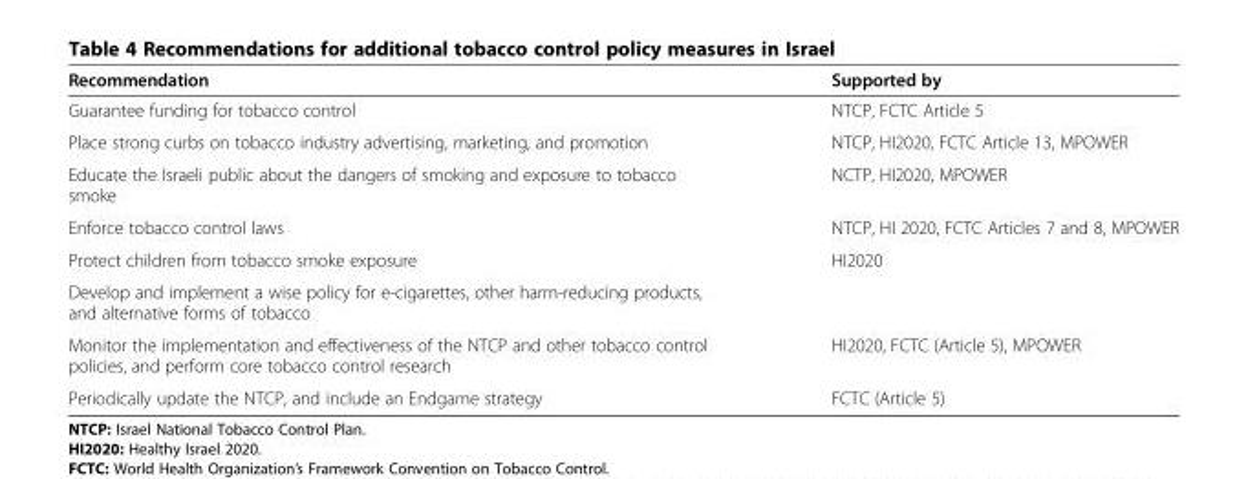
<table><thead><tr><td>Recommendation</td><td>Supported by</td></tr></thead><tbody><tr><td>Guarantee funding for tobacco control</td><td>NTCP, FCTC Article 5</td></tr><tr><td>Place strong curbs on tobacco industry advertising, marketing, and promotion</td><td>NTCP, HI2020, FCTC Article 13, MPOWER</td></tr><tr><td>Educate the Israeli public about the dangers of smoking and exposure to tobacco smoke</td><td>NCTP, HI2020, MPOWER</td></tr><tr><td>Enforce tobacco control laws</td><td>NTCP, HI 2020, FCTC Articles 7 and 8, MPOWER</td></tr><tr><td>Protect children from tobacco smoke exposure</td><td>HI2020</td></tr><tr><td colspan="2">Develop and implement a wise policy for e-cigarettes, other harm-reducing products, and alternative forms of tobacco</td></tr><tr><td>Monitor the implementation and effectiveness of the NTCP and other tobacco control policies, and perform core tobacco control research</td><td>HI2020, FCTC (Article 5), MPOWER</td></tr><tr><td>Periodically update the NTCP, and include an Endgame strategy</td><td>FCTC (Article 5)</td></tr></tbody></table>